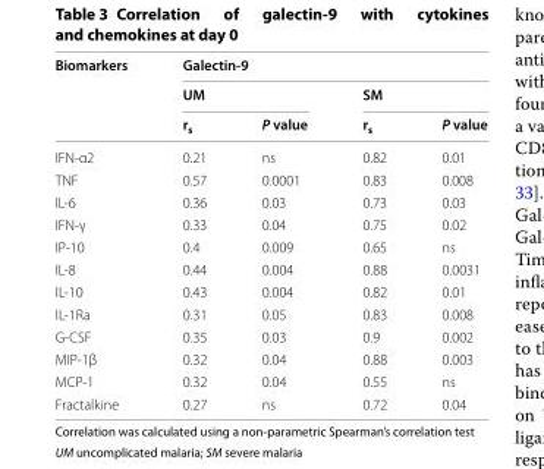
<table><thead><tr><td rowspan="3">Biomarkers</td><td colspan="4">Galectin‑9</td></tr><tr><td colspan="2">UM</td><td colspan="2">SM</td></tr><tr><td>r<sub>s</sub></td><td>P value</td><td>r<sub>s</sub></td><td>P value</td></tr></thead><tbody><tr><td>IFN‑α2</td><td>0.21</td><td>ns</td><td>0.82</td><td>0.01</td></tr><tr><td>TNF</td><td>0.57</td><td>0.0001</td><td>0.83</td><td>0.008</td></tr><tr><td>IL‑6</td><td>0.36</td><td>0.03</td><td>0.73</td><td>0.03</td></tr><tr><td>IFN‑γ</td><td>0.33</td><td>0.04</td><td>0.75</td><td>0.02</td></tr><tr><td>IP‑10</td><td>0.4</td><td>0.009</td><td>0.65</td><td>ns</td></tr><tr><td>IL‑8</td><td>0.44</td><td>0.004</td><td>0.88</td><td>0.0031</td></tr><tr><td>IL‑10</td><td>0.43</td><td>0.004</td><td>0.82</td><td>0.01</td></tr><tr><td>IL‑1Ra</td><td>0.31</td><td>0.05</td><td>0.83</td><td>0.008</td></tr><tr><td>G‑CSF</td><td>0.35</td><td>0.03</td><td>0.9</td><td>0.002</td></tr><tr><td>MIP‑1β</td><td>0.32</td><td>0.04</td><td>0.88</td><td>0.003</td></tr><tr><td>MCP‑1</td><td>0.32</td><td>0.04</td><td>0.55</td><td>ns</td></tr><tr><td>Fractalkine</td><td>0.27</td><td>ns</td><td>0.72</td><td>0.04</td></tr></tbody></table>